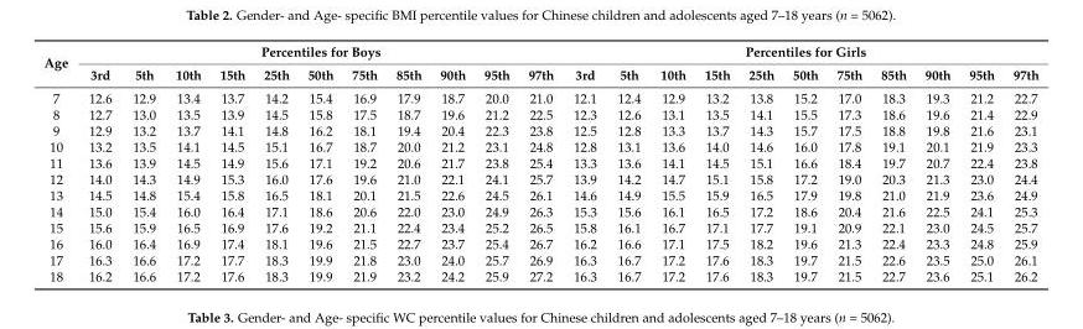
<table><thead><tr><td rowspan="2">Age</td><td colspan="11">Percentiles for Boys</td><td colspan="11">Percentiles for Girls</td></tr><tr><td>3rd</td><td>5th</td><td>10th</td><td>15th</td><td>25th</td><td>50th</td><td>75th</td><td>85th</td><td>90th</td><td>95th</td><td>97th</td><td>3rd</td><td>5th</td><td>10th</td><td>15th</td><td>25th</td><td>50th</td><td>75th</td><td>85th</td><td>90th</td><td>95th</td><td>97th</td></tr></thead><tbody><tr><td>7</td><td>12.6</td><td>12.9</td><td>13.4</td><td>13.7</td><td>14.2</td><td>15.4</td><td>16.9</td><td>17.9</td><td>18.7</td><td>20.0</td><td>21.0</td><td>12.1</td><td>12.4</td><td>12.9</td><td>13.2</td><td>13.8</td><td>15.2</td><td>17.0</td><td>18.3</td><td>19.3</td><td>21.2</td><td>22.7</td></tr><tr><td>8</td><td>12.7</td><td>13.0</td><td>13.5</td><td>13.9</td><td>14.5</td><td>15.8</td><td>17.5</td><td>18.7</td><td>19.6</td><td>21.2</td><td>22.5</td><td>12.3</td><td>12.6</td><td>13.1</td><td>13.5</td><td>14.1</td><td>15.5</td><td>17.3</td><td>18.6</td><td>19.6</td><td>21.4</td><td>22.9</td></tr><tr><td>9</td><td>12.9</td><td>13.2</td><td>13.7</td><td>14.1</td><td>14.8</td><td>16.2</td><td>18.1</td><td>19.4</td><td>20.4</td><td>22.3</td><td>23.8</td><td>12.5</td><td>12.8</td><td>13.3</td><td>13.7</td><td>14.3</td><td>15.7</td><td>17.5</td><td>18.8</td><td>19.8</td><td>21.6</td><td>23.1</td></tr><tr><td>10</td><td>13.2</td><td>13.5</td><td>14.1</td><td>14.5</td><td>15.1</td><td>16.7</td><td>18.7</td><td>20.0</td><td>21.2</td><td>23.1</td><td>24.8</td><td>12.8</td><td>13.1</td><td>13.6</td><td>14.0</td><td>14.6</td><td>16.0</td><td>17.8</td><td>19.1</td><td>20.1</td><td>21.9</td><td>23.3</td></tr><tr><td>11</td><td>13.6</td><td>13.9</td><td>14.5</td><td>14.9</td><td>15.6</td><td>17.1</td><td>19.2</td><td>20.6</td><td>21.7</td><td>23.8</td><td>25.4</td><td>13.3</td><td>13.6</td><td>14.1</td><td>14.5</td><td>15.1</td><td>16.6</td><td>18.4</td><td>19.7</td><td>20.7</td><td>22.4</td><td>23.8</td></tr><tr><td>12</td><td>14.0</td><td>14.3</td><td>14.9</td><td>15.3</td><td>16.0</td><td>17.6</td><td>19.6</td><td>21.0</td><td>22.1</td><td>24.1</td><td>25.7</td><td>13.9</td><td>14.2</td><td>14.7</td><td>15.1</td><td>15.8</td><td>17.2</td><td>19.0</td><td>20.3</td><td>21.3</td><td>23.0</td><td>24.4</td></tr><tr><td>13</td><td>14.5</td><td>14.8</td><td>15.4</td><td>15.8</td><td>16.5</td><td>18.1</td><td>20.1</td><td>21.5</td><td>22.6</td><td>24.5</td><td>26.1</td><td>14.6</td><td>14.9</td><td>15.5</td><td>15.9</td><td>16.5</td><td>17.9</td><td>19.8</td><td>21.0</td><td>21.9</td><td>23.6</td><td>24.9</td></tr><tr><td>14</td><td>15.0</td><td>15.4</td><td>16.0</td><td>16.4</td><td>17.1</td><td>18.6</td><td>20.6</td><td>22.0</td><td>23.0</td><td>24.9</td><td>26.3</td><td>15.3</td><td>15.6</td><td>16.1</td><td>16.5</td><td>17.2</td><td>18.6</td><td>20.4</td><td>21.6</td><td>22.5</td><td>24.1</td><td>25.3</td></tr><tr><td>15</td><td>15.6</td><td>15.9</td><td>16.5</td><td>16.9</td><td>17.6</td><td>19.2</td><td>21.1</td><td>22.4</td><td>23.4</td><td>25.2</td><td>26.5</td><td>15.8</td><td>16.1</td><td>16.7</td><td>17.1</td><td>17.7</td><td>19.1</td><td>20.9</td><td>22.1</td><td>23.0</td><td>24.5</td><td>25.7</td></tr><tr><td>16</td><td>16.0</td><td>16.4</td><td>16.9</td><td>17.4</td><td>18.1</td><td>19.6</td><td>21.5</td><td>22.7</td><td>23.7</td><td>25.4</td><td>26.7</td><td>16.2</td><td>16.6</td><td>17.1</td><td>17.5</td><td>18.2</td><td>19.6</td><td>21.3</td><td>22.4</td><td>23.3</td><td>24.8</td><td>25.9</td></tr><tr><td>17</td><td>16.3</td><td>16.6</td><td>17.2</td><td>17.7</td><td>18.3</td><td>19.9</td><td>21.8</td><td>23.0</td><td>24.0</td><td>25.7</td><td>26.9</td><td>16.3</td><td>16.7</td><td>17.2</td><td>17.6</td><td>18.3</td><td>19.7</td><td>21.5</td><td>22.6</td><td>23.5</td><td>25.0</td><td>26.1</td></tr><tr><td>18</td><td>16.2</td><td>16.6</td><td>17.2</td><td>17.6</td><td>18.3</td><td>19.9</td><td>21.9</td><td>23.2</td><td>24.2</td><td>25.9</td><td>27.2</td><td>16.3</td><td>16.7</td><td>17.2</td><td>17.6</td><td>18.3</td><td>19.7</td><td>21.5</td><td>22.7</td><td>23.6</td><td>25.1</td><td>26.2</td></tr></tbody></table>